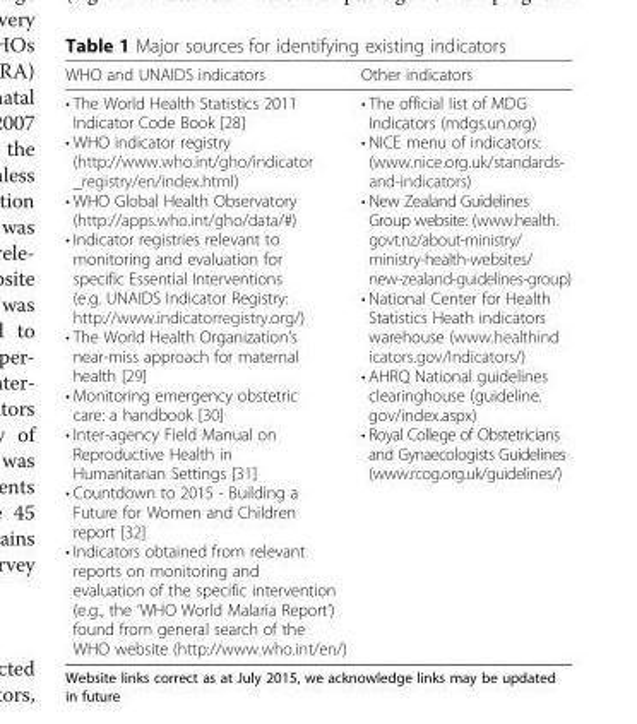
<table><thead><tr><td>WHO and UNAIDS indicators</td><td>Other indicators</td></tr></thead><tbody><tr><td>• The World Health Statistics 2011 Indicator Code Book [28] • WHO indicator registry (http://www.who.int/gho/indicator _registry/en/index.html) • WHO Global Health Observatory (http://apps.who.int/gho/data/#) • Indicator registries relevant to monitoring and evaluation for specific Essential Interventions (e.g. UNAIDS Indicator Registry: http://www.indicatorregistry.org/) • The World Health Organization’s near-miss approach for maternal health [29] • Monitoring emergency obstetric care: a handbook [30] • Inter-agency Field Manual on Reproductive Health in Humanitarian Settings [31] • Countdown to 2015 - Building a Future for Women and Children report [32] • Indicators obtained from relevant reports on monitoring and evaluation of the specific intervention (e.g., the ‘WHO World Malaria Report’) found from general search of the WHO website (http://www.who.int/en/)</td><td>• The official list of MDG Indicators (mdgs.un.org) • NICE menu of indicators: (www.nice.org.uk/standards- and-indicators) • New Zealand Guidelines Group website: (www.health. govt.nz/about-ministry/ ministry-health-websites/ new-zealand-guidelines-group) • National Center for Health Statistics Heath indicators warehouse (www.healthind icators.gov/Indicators/) • AHRQ National guidelines clearinghouse (guideline. gov/index.aspx) • Royal College of Obstetricians and Gynaecologists Guidelines (www.rcog.org.uk/guidelines/)</td></tr></tbody></table>